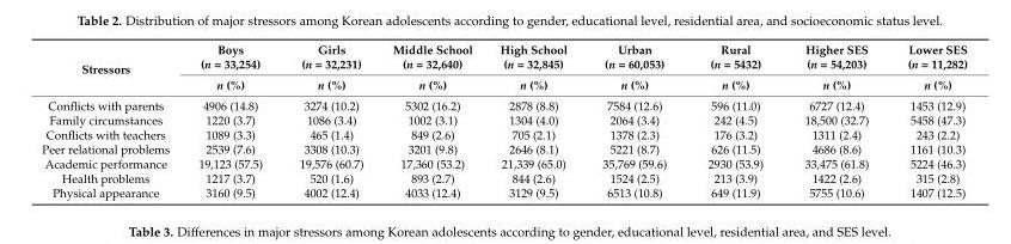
<table><thead><tr><td rowspan="2">Stressors</td><td rowspan="2">Boys (n = 33,254) n (%)</td><td rowspan="2">Girls (n = 32,231) n (%)</td><td rowspan="2">Middle School (n = 32,640) n (%)</td><td rowspan="2">High School (n = 32,845) n (%)</td><td rowspan="2">Urban (n = 60,053) n (%)</td><td rowspan="2">Rural (n = 5432) n (%)</td><td rowspan="2">Higher SES (n = 54,203) n (%)</td><td rowspan="2">Lower SES (n = 11,282) n (%)</td></tr><tr></tr></thead><tbody><tr><td>Conflicts with parents</td><td>4906 (14.8)</td><td>3274 (10.2)</td><td>5302 (16.2)</td><td>2878 (8.8)</td><td>7584 (12.6)</td><td>596 (11.0)</td><td>6727 (12.4)</td><td>1453 (12.9)</td></tr><tr><td>Family circumstances</td><td>1220 (3.7)</td><td>1086 (3.4)</td><td>1002 (3.1)</td><td>1304 (4.0)</td><td>2064 (3.4)</td><td>242 (4.5)</td><td>18,500 (32.7)</td><td>5458 (47.3)</td></tr><tr><td>Conflicts with teachers</td><td>1089 (3.3)</td><td>465 (1.4)</td><td>849 (2.6)</td><td>705 (2.1)</td><td>1378 (2.3)</td><td>176 (3.2)</td><td>1311 (2.4)</td><td>243 (2.2)</td></tr><tr><td>Peer relational problems</td><td>2539 (7.6)</td><td>3308 (10.3)</td><td>3201 (9.8)</td><td>2646 (8.1)</td><td>5221 (8.7)</td><td>626 (11.5)</td><td>4686 (8.6)</td><td>1161 (10.3)</td></tr><tr><td>Academic performance</td><td>19,123 (57.5)</td><td>19,576 (60.7)</td><td>17,360 (53.2)</td><td>21,339 (65.0)</td><td>35,769 (59.6)</td><td>2930 (53.9)</td><td>33,475 (61.8)</td><td>5224 (46.3)</td></tr><tr><td>Health problems</td><td>1217 (3.7)</td><td>520 (1.6)</td><td>893 (2.7)</td><td>844 (2.6)</td><td>1524 (2.5)</td><td>213 (3.9)</td><td>1422 (2.6)</td><td>315 (2.8)</td></tr><tr><td>Physical appearance</td><td>3160 (9.5)</td><td>4002 (12.4)</td><td>4033 (12.4)</td><td>3129 (9.5)</td><td>6513 (10.8)</td><td>649 (11.9)</td><td>5755 (10.6)</td><td>1407 (12.5)</td></tr></tbody></table>